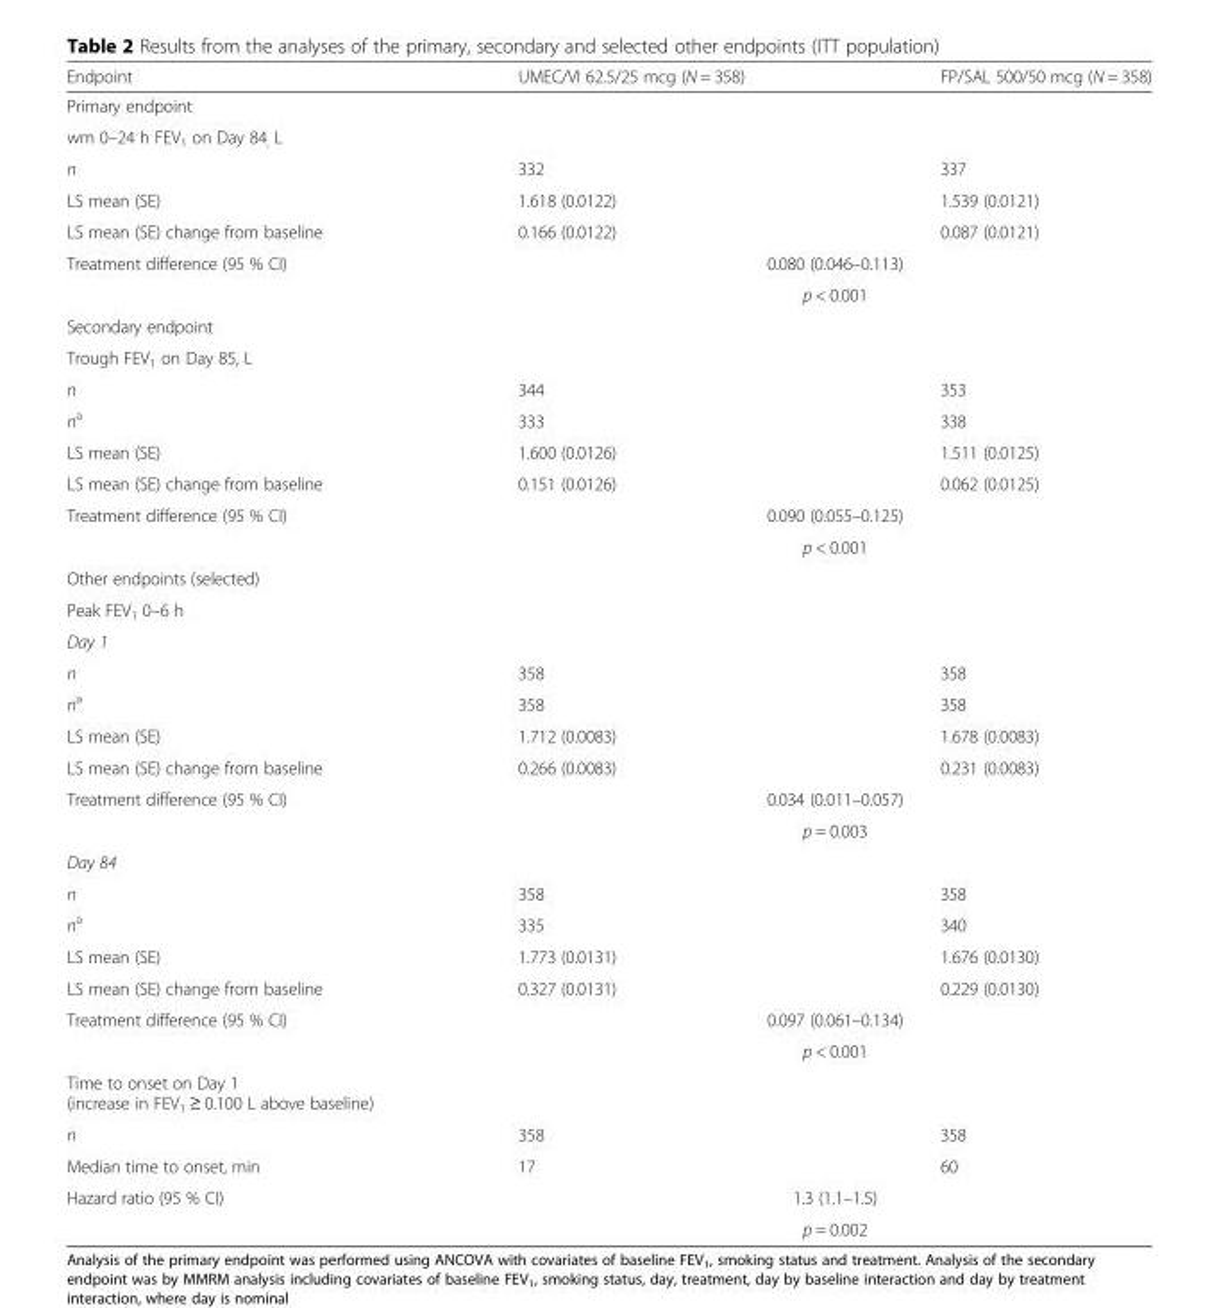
<table><thead><tr><td>Endpoint</td><td>UMEC/VI 62.5/25 mcg (N = 358)</td><td>FP/SAL 500/50 mcg (N = 358)</td></tr></thead><tbody><tr><td colspan="3">Primary endpoint</td></tr><tr><td colspan="3">wm 0–24 h FEV<sub>1</sub> on Day 84<sub>,</sub> L</td></tr><tr><td>n</td><td>332</td><td>337</td></tr><tr><td>LS mean (SE)</td><td>1.618 (0.0122)</td><td>1.539 (0.0121)</td></tr><tr><td>LS mean (SE) change from baseline</td><td>0.166 (0.0122)</td><td>0.087 (0.0121)</td></tr><tr><td rowspan="2">Treatment difference (95 % CI)</td><td colspan="2">0.080 (0.046–0.113)</td></tr><tr><td colspan="2">p &lt; 0.001</td></tr><tr><td colspan="3">Secondary endpoint</td></tr><tr><td colspan="3">Trough FEV<sub>1</sub> on Day 85, L</td></tr><tr><td>n</td><td>344</td><td>353</td></tr><tr><td>n<sup>a</sup></td><td>333</td><td>338</td></tr><tr><td>LS mean (SE)</td><td>1.600 (0.0126)</td><td>1.511 (0.0125)</td></tr><tr><td>LS mean (SE) change from baseline</td><td>0.151 (0.0126)</td><td>0.062 (0.0125)</td></tr><tr><td rowspan="2">Treatment difference (95 % CI)</td><td colspan="2">0.090 (0.055–0.125)</td></tr><tr><td colspan="2">p &lt; 0.001</td></tr><tr><td colspan="3">Other endpoints (selected)</td></tr><tr><td colspan="3">Peak FEV<sub>1</sub> 0–6 h</td></tr><tr><td colspan="3">Day 1</td></tr><tr><td>n</td><td>358</td><td>358</td></tr><tr><td>n<sup>a</sup></td><td>358</td><td>358</td></tr><tr><td>LS mean (SE)</td><td>1.712 (0.0083)</td><td>1.678 (0.0083)</td></tr><tr><td>LS mean (SE) change from baseline</td><td>0.266 (0.0083)</td><td>0.231 (0.0083)</td></tr><tr><td rowspan="2">Treatment difference (95 % CI)</td><td colspan="2">0.034 (0.011–0.057)</td></tr><tr><td colspan="2">p = 0.003</td></tr><tr><td colspan="3">Day 84</td></tr><tr><td>n</td><td>358</td><td>358</td></tr><tr><td>n<sup>a</sup></td><td>335</td><td>340</td></tr><tr><td>LS mean (SE)</td><td>1.773 (0.0131)</td><td>1.676 (0.0130)</td></tr><tr><td>LS mean (SE) change from baseline</td><td>0.327 (0.0131)</td><td>0.229 (0.0130)</td></tr><tr><td rowspan="2">Treatment difference (95 % CI)</td><td colspan="2">0.097 (0.061–0.134)</td></tr><tr><td colspan="2">p &lt; 0.001</td></tr><tr><td colspan="3">Time to onset on Day 1 (increase in FEV<sub>1</sub> ≥ 0.100 L above baseline)</td></tr><tr><td>n</td><td>358</td><td>358</td></tr><tr><td>Median time to onset, min</td><td>17</td><td>60</td></tr><tr><td rowspan="2">Hazard ratio (95 % CI)</td><td colspan="2">1.3 (1.1–1.5)</td></tr><tr><td colspan="2">p = 0.002</td></tr></tbody></table>